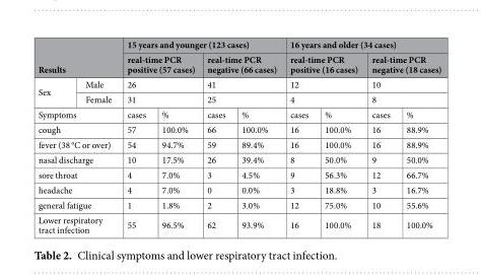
<table><thead><tr><td rowspan="2" colspan="2">Results</td><td colspan="4">15 years and younger (123 cases)</td><td colspan="4">16 years and older (34 cases)</td></tr><tr><td rowspan="3" colspan="2">real-time PCR positive (57 cases) 26 31</td><td rowspan="3" colspan="2">real-time PCR negative (66 cases) 41 25</td><td rowspan="3" colspan="2">real-time PCR positive (16 cases) 12 4</td><td rowspan="3" colspan="2">real-time PCR negative (18 cases) 10 8</td></tr><tr><td rowspan="2">Sex</td><td rowspan="2">Male Female</td></tr><tr></tr><tr><td colspan="2">Symptoms</td><td>cases</td><td>%</td><td>cases</td><td>%</td><td>cases</td><td>%</td><td>cases</td><td>%</td></tr></thead><tbody><tr><td colspan="2">cough</td><td>57</td><td>100.0%</td><td>66</td><td>100.0%</td><td>16</td><td>100.0%</td><td>16</td><td>88.9%</td></tr><tr><td colspan="2">fever (38 °C or over)</td><td>54</td><td>94.7%</td><td>59</td><td>89.4%</td><td>16</td><td>100.0%</td><td>16</td><td>88.9%</td></tr><tr><td colspan="2">nasal discharge</td><td>10</td><td>17.5%</td><td>26</td><td>39.4%</td><td>8</td><td>50.0%</td><td>9</td><td>50.0%</td></tr><tr><td colspan="2">sore throat</td><td>4</td><td>7.0%</td><td>3</td><td>4.5%</td><td>9</td><td>56.3%</td><td>12</td><td>66.7%</td></tr><tr><td colspan="2">headache</td><td>4</td><td>7.0%</td><td>0</td><td>0.0%</td><td>3</td><td>18.8%</td><td>3</td><td>16.7%</td></tr><tr><td colspan="2">general fatigue</td><td>1</td><td>1.8%</td><td>2</td><td>3.0%</td><td>12</td><td>75.0%</td><td>10</td><td>55.6%</td></tr><tr><td colspan="2">Lower respiratory tract infection</td><td>55</td><td>96.5%</td><td>62</td><td>93.9%</td><td>16</td><td>100.0%</td><td>18</td><td>100.0%</td></tr></tbody></table>